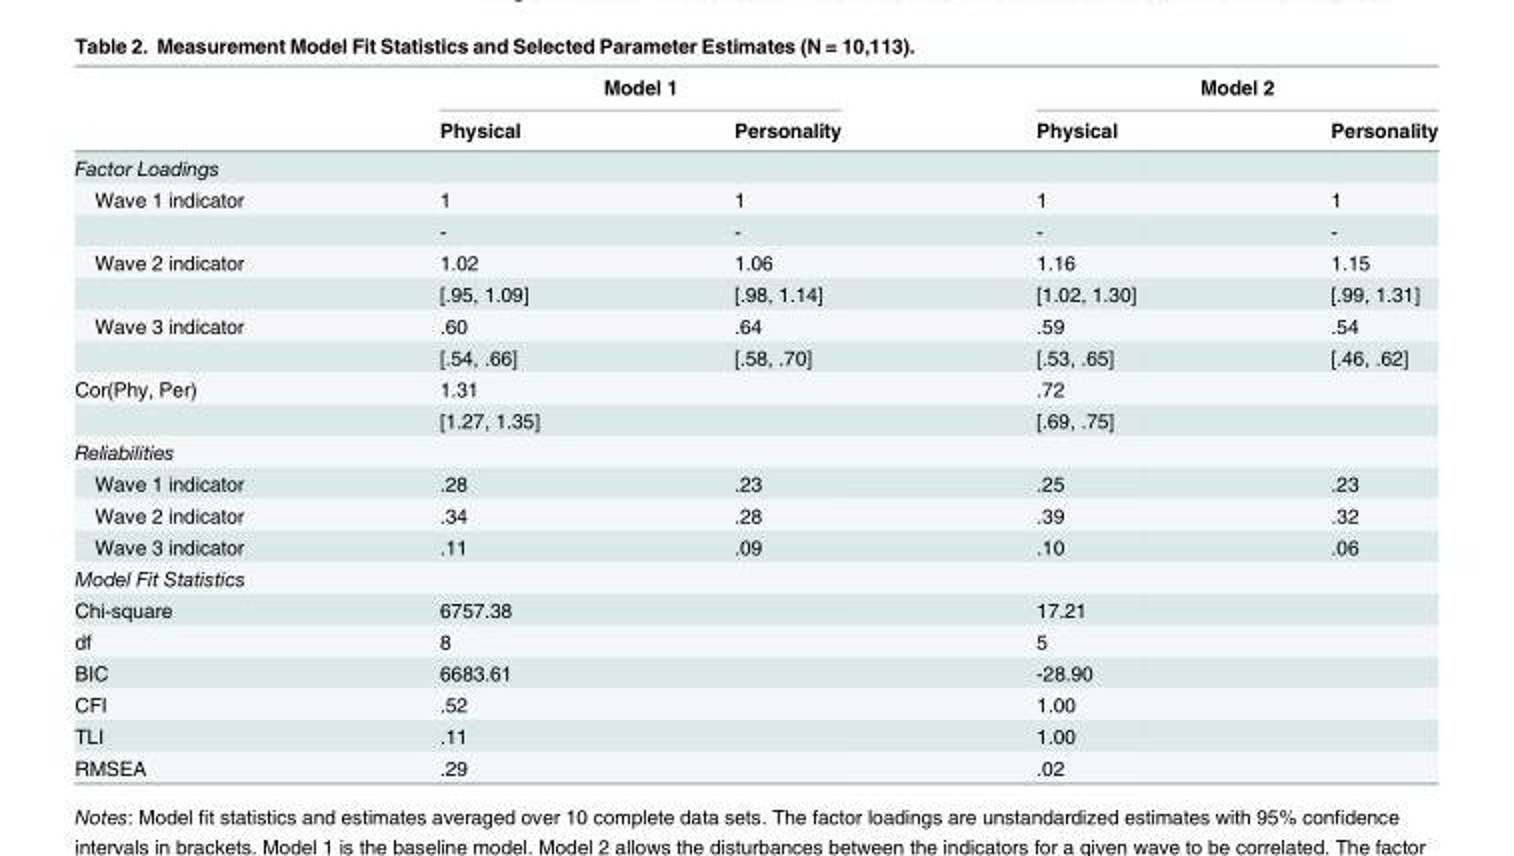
<table><thead><tr><td rowspan="2"></td><td colspan="2">Model 1</td><td colspan="2">Model 2</td></tr><tr><td>Physical</td><td>Personality</td><td>Physical</td><td>Personality</td></tr></thead><tbody><tr><td colspan="5">Factor Loadings</td></tr><tr><td rowspan="2">Wave 1 indicator</td><td>1</td><td>1</td><td>1</td><td>1</td></tr><tr><td>-</td><td>-</td><td>-</td><td>-</td></tr><tr><td rowspan="2">Wave 2 indicator</td><td>1.02</td><td>1.06</td><td>1.16</td><td>1.15</td></tr><tr><td>[.95, 1.09]</td><td>[.98, 1.14]</td><td>[1.02, 1.30]</td><td>[.99, 1.31]</td></tr><tr><td rowspan="2">Wave 3 indicator</td><td>.60</td><td>.64</td><td>.59</td><td>.54</td></tr><tr><td>[.54, .66]</td><td>[.58, .70]</td><td>[.53, .65]</td><td>[.46, .62]</td></tr><tr><td rowspan="2">Cor(Phy, Per)</td><td>1.31</td><td></td><td>.72</td><td></td></tr><tr><td>[1.27, 1.35]</td><td></td><td>[.69, .75]</td><td></td></tr><tr><td colspan="5">Reliabilities</td></tr><tr><td>Wave 1 indicator</td><td>.28</td><td>.23</td><td>.25</td><td>.23</td></tr><tr><td>Wave 2 indicator</td><td>.34</td><td>.28</td><td>.39</td><td>.32</td></tr><tr><td>Wave 3 indicator</td><td>.11</td><td>.09</td><td>.10</td><td>.06</td></tr><tr><td colspan="5">Model Fit Statistics</td></tr><tr><td>Chi-square</td><td>6757.38</td><td></td><td>17.21</td><td></td></tr><tr><td>df</td><td>8</td><td></td><td>5</td><td></td></tr><tr><td>BIC</td><td>6683.61</td><td></td><td>-28.90</td><td></td></tr><tr><td>CFI</td><td>.52</td><td></td><td>1.00</td><td></td></tr><tr><td>TLI</td><td>.11</td><td></td><td>1.00</td><td></td></tr><tr><td>RMSEA</td><td>.29</td><td></td><td>.02</td><td></td></tr></tbody></table>